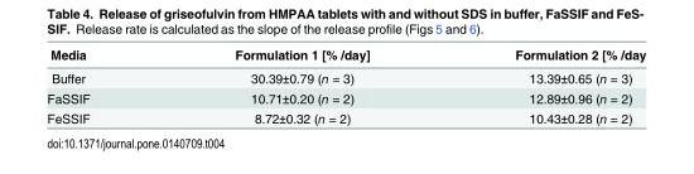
<table><thead><tr><td>Media</td><td>Formulation 1 [% /day]</td><td>Formulation 2 [% /day</td></tr></thead><tbody><tr><td>Buffer</td><td>30.39±0.79 (n = 3)</td><td>13.39±0.65 (n = 3)</td></tr><tr><td>FaSSIF</td><td>10.71±0.20 (n = 2)</td><td>12.89±0.96 (n = 2)</td></tr><tr><td>FeSSIF</td><td>8.72±0.32 (n = 2)</td><td>10.43±0.28 (n = 2)</td></tr></tbody></table>